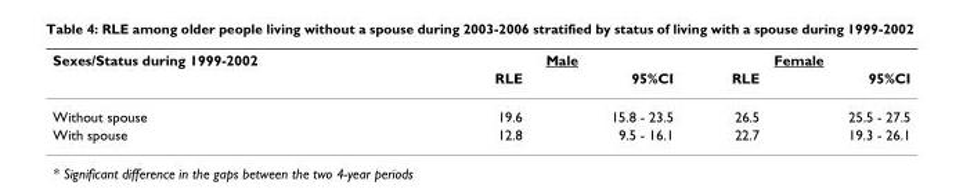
<table><thead><tr><td rowspan="2">Sexes/Status during 1999-2002</td><td colspan="2">Male</td><td colspan="2">Female</td></tr><tr><td>RLE</td><td>95%CI</td><td>RLE</td><td>95%CI</td></tr></thead><tbody><tr><td>Without spouse</td><td>19.6</td><td>15.8 - 23.5</td><td>26.5</td><td>25.5 - 27.5</td></tr><tr><td>With spouse</td><td>12.8</td><td>9.5 - 16.1</td><td>22.7</td><td>19.3 - 26.1</td></tr></tbody></table>